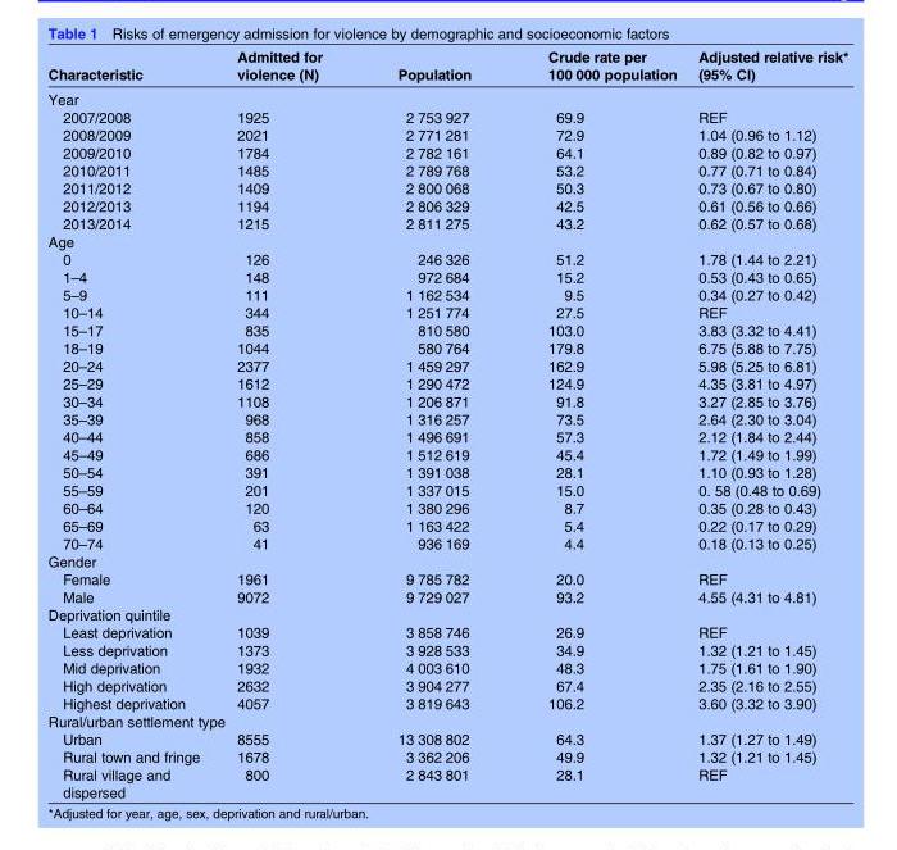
<table><thead><tr><td>Characteristic</td><td>Admitted for violence (N)</td><td>Population</td><td>Crude rate per 100 000 population</td><td>Adjusted relative risk* (95% CI)</td></tr></thead><tbody><tr><td colspan="5">Year</td></tr><tr><td>2007/2008</td><td>1925</td><td>2 753 927</td><td>69.9</td><td>REF</td></tr><tr><td>2008/2009</td><td>2021</td><td>2 771 281</td><td>72.9</td><td>1.04 (0.96 to 1.12)</td></tr><tr><td>2009/2010</td><td>1784</td><td>2 782 161</td><td>64.1</td><td>0.89 (0.82 to 0.97)</td></tr><tr><td>2010/2011</td><td>1485</td><td>2 789 768</td><td>53.2</td><td>0.77 (0.71 to 0.84)</td></tr><tr><td>2011/2012</td><td>1409</td><td>2 800 068</td><td>50.3</td><td>0.73 (0.67 to 0.80)</td></tr><tr><td>2012/2013</td><td>1194</td><td>2 806 329</td><td>42.5</td><td>0.61 (0.56 to 0.66)</td></tr><tr><td>2013/2014</td><td>1215</td><td>2 811 275</td><td>43.2</td><td>0.62 (0.57 to 0.68)</td></tr><tr><td colspan="5">Age</td></tr><tr><td>0</td><td>126</td><td>246 326</td><td>51.2</td><td>1.78 (1.44 to 2.21)</td></tr><tr><td>1–4</td><td>148</td><td>972 684</td><td>15.2</td><td>0.53 (0.43 to 0.65)</td></tr><tr><td>5–9</td><td>111</td><td>1 162 534</td><td>9.5</td><td>0.34 (0.27 to 0.42)</td></tr><tr><td>10–14</td><td>344</td><td>1 251 774</td><td>27.5</td><td>REF</td></tr><tr><td>15–17</td><td>835</td><td>810 580</td><td>103.0</td><td>3.83 (3.32 to 4.41)</td></tr><tr><td>18–19</td><td>1044</td><td>580 764</td><td>179.8</td><td>6.75 (5.88 to 7.75)</td></tr><tr><td>20–24</td><td>2377</td><td>1 459 297</td><td>162.9</td><td>5.98 (5.25 to 6.81)</td></tr><tr><td>25–29</td><td>1612</td><td>1 290 472</td><td>124.9</td><td>4.35 (3.81 to 4.97)</td></tr><tr><td>30–34</td><td>1108</td><td>1 206 871</td><td>91.8</td><td>3.27 (2.85 to 3.76)</td></tr><tr><td>35–39</td><td>968</td><td>1 316 257</td><td>73.5</td><td>2.64 (2.30 to 3.04)</td></tr><tr><td>40–44</td><td>858</td><td>1 496 691</td><td>57.3</td><td>2.12 (1.84 to 2.44)</td></tr><tr><td>45–49</td><td>686</td><td>1 512 619</td><td>45.4</td><td>1.72 (1.49 to 1.99)</td></tr><tr><td>50–54</td><td>391</td><td>1 391 038</td><td>28.1</td><td>1.10 (0.93 to 1.28)</td></tr><tr><td>55–59</td><td>201</td><td>1 337 015</td><td>15.0</td><td>0. 58 (0.48 to 0.69)</td></tr><tr><td>60–64</td><td>120</td><td>1 380 296</td><td>8.7</td><td>0.35 (0.28 to 0.43)</td></tr><tr><td>65–69</td><td>63</td><td>1 163 422</td><td>5.4</td><td>0.22 (0.17 to 0.29)</td></tr><tr><td>70–74</td><td>41</td><td>936 169</td><td>4.4</td><td>0.18 (0.13 to 0.25)</td></tr><tr><td colspan="5">Gender</td></tr><tr><td>Female</td><td>1961</td><td>9 785 782</td><td>20.0</td><td>REF</td></tr><tr><td>Male</td><td>9072</td><td>9 729 027</td><td>93.2</td><td>4.55 (4.31 to 4.81)</td></tr><tr><td colspan="5">Deprivation quintile</td></tr><tr><td>Least deprivation</td><td>1039</td><td>3 858 746</td><td>26.9</td><td>REF</td></tr><tr><td>Less deprivation</td><td>1373</td><td>3 928 533</td><td>34.9</td><td>1.32 (1.21 to 1.45)</td></tr><tr><td>Mid deprivation</td><td>1932</td><td>4 003 610</td><td>48.3</td><td>1.75 (1.61 to 1.90)</td></tr><tr><td>High deprivation</td><td>2632</td><td>3 904 277</td><td>67.4</td><td>2.35 (2.16 to 2.55)</td></tr><tr><td>Highest deprivation</td><td>4057</td><td>3 819 643</td><td>106.2</td><td>3.60 (3.32 to 3.90)</td></tr><tr><td colspan="5">Rural/urban settlement type</td></tr><tr><td>Urban</td><td>8555</td><td>13 308 802</td><td>64.3</td><td>1.37 (1.27 to 1.49)</td></tr><tr><td>Rural town and fringe</td><td>1678</td><td>3 362 206</td><td>49.9</td><td>1.32 (1.21 to 1.45)</td></tr><tr><td>Rural village and dispersed</td><td>800</td><td>2 843 801</td><td>28.1</td><td>REF</td></tr></tbody></table>